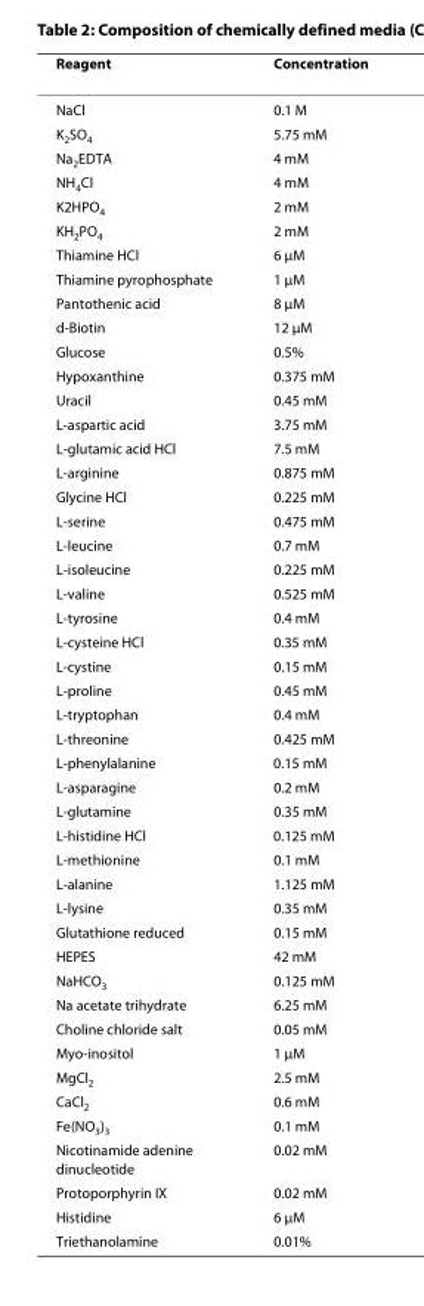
<table><thead><tr><td>Reagent</td><td>Concentration</td></tr></thead><tbody><tr><td>NaCl</td><td>0.1 M</td></tr><tr><td>K<sub>2</sub>SO<sub>4</sub></td><td>5.75 mM</td></tr><tr><td>Na<sub>2</sub>EDTA</td><td>4 mM</td></tr><tr><td>NH<sub>4</sub>Cl</td><td>4 mM</td></tr><tr><td>K2HPO<sub>4</sub></td><td>2 mM</td></tr><tr><td>KH<sub>2</sub>PO<sub>4</sub></td><td>2 mM</td></tr><tr><td>Thiamine HCl</td><td>6 μM</td></tr><tr><td>Thiamine pyrophosphate</td><td>1 μM</td></tr><tr><td>Pantothenic acid</td><td>8 μM</td></tr><tr><td>d-Biotin</td><td>12 μM</td></tr><tr><td>Glucose</td><td>0.5%</td></tr><tr><td>Hypoxanthine</td><td>0.375 mM</td></tr><tr><td>Uracil</td><td>0.45 mM</td></tr><tr><td>L-aspartic acid</td><td>3.75 mM</td></tr><tr><td>L-glutamic acid HCl</td><td>7.5 mM</td></tr><tr><td>L-arginine</td><td>0.875 mM</td></tr><tr><td>Glycine HCl</td><td>0.225 mM</td></tr><tr><td>L-serine</td><td>0.475 mM</td></tr><tr><td>L-leucine</td><td>0.7 mM</td></tr><tr><td>L-isoleucine</td><td>0.225 mM</td></tr><tr><td>L-valine</td><td>0.525 mM</td></tr><tr><td>L-tyrosine</td><td>0.4 mM</td></tr><tr><td>L-cysteine HCl</td><td>0.35 mM</td></tr><tr><td>L-cystine</td><td>0.15 mM</td></tr><tr><td>L-proline</td><td>0.45 mM</td></tr><tr><td>L-tryptophan</td><td>0.4 mM</td></tr><tr><td>L-threonine</td><td>0.425 mM</td></tr><tr><td>L-phenylalanine</td><td>0.15 mM</td></tr><tr><td>L-asparagine</td><td>0.2 mM</td></tr><tr><td>L-glutamine</td><td>0.35 mM</td></tr><tr><td>L-histidine HCl</td><td>0.125 mM</td></tr><tr><td>L-methionine</td><td>0.1 mM</td></tr><tr><td>L-alanine</td><td>1.125 mM</td></tr><tr><td>L-lysine</td><td>0.35 mM</td></tr><tr><td>Glutathione reduced</td><td>0.15 mM</td></tr><tr><td>HEPES</td><td>42 mM</td></tr><tr><td>NaHCO<sub>3</sub></td><td>0.125 mM</td></tr><tr><td>Na acetate trihydrate</td><td>6.25 mM</td></tr><tr><td>Choline chloride salt</td><td>0.05 mM</td></tr><tr><td>Myo-inositol</td><td>1 μM</td></tr><tr><td>MgCl<sub>2</sub></td><td>2.5 mM</td></tr><tr><td>CaCl<sub>2</sub></td><td>0.6 mM</td></tr><tr><td>Fe(NO<sub>3</sub>)<sub>3</sub></td><td>0.1 mM</td></tr><tr><td>Nicotinamide adenine dinucleotide</td><td>0.02 mM</td></tr><tr><td>Protoporphyrin IX</td><td>0.02 mM</td></tr><tr><td>Histidine</td><td>6 μM</td></tr><tr><td>Triethanolamine</td><td>0.01%</td></tr></tbody></table>